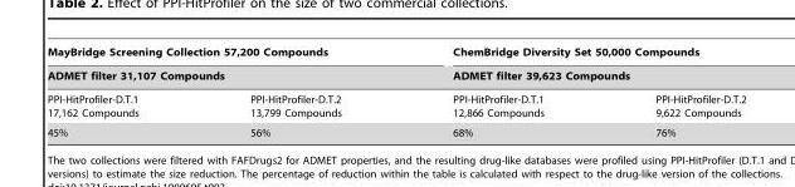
<table><thead><tr><td rowspan="2" colspan="2">MayBridge Screening Collection 57,200 Compounds ADMET filter 31,107 Compounds</td><td rowspan="2" colspan="2">ChemBridge Diversity Set 50,000 Compounds ADMET filter 39,623 Compounds</td></tr><tr></tr><tr><td>PPI-HitProfiler-D.T.1 17,162 Compounds</td><td>PPI-HitProfiler-D.T.2 13,799 Compounds</td><td>PPI-HitProfiler-D.T.1 12,866 Compounds</td><td>PPI-HitProfiler-D.T.2 9,622 Compounds</td></tr></thead><tbody><tr><td>45%</td><td>56%</td><td>68%</td><td>76%</td></tr></tbody></table>